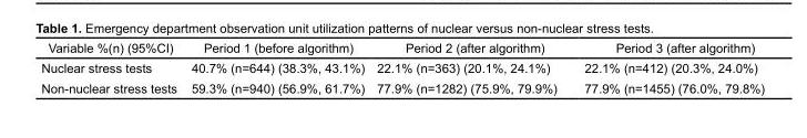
<table><thead><tr><td>Variable %(n) (95%CI)</td><td>Period 1 (before algorithm)</td><td>Period 2 (after algorithm)</td><td>Period 3 (after algorithm)</td></tr></thead><tbody><tr><td>Nuclear stress tests</td><td>40.7% (n=644) (38.3%, 43.1%)</td><td>22.1% (n=363) (20.1%, 24.1%)</td><td>22.1% (n=412) (20.3%, 24.0%)</td></tr><tr><td>Non-nuclear stress tests</td><td>59.3% (n=940) (56.9%, 61.7%)</td><td>77.9% (n=1282) (75.9%, 79.9%)</td><td>77.9% (n=1455) (76.0%, 79.8%)</td></tr></tbody></table>